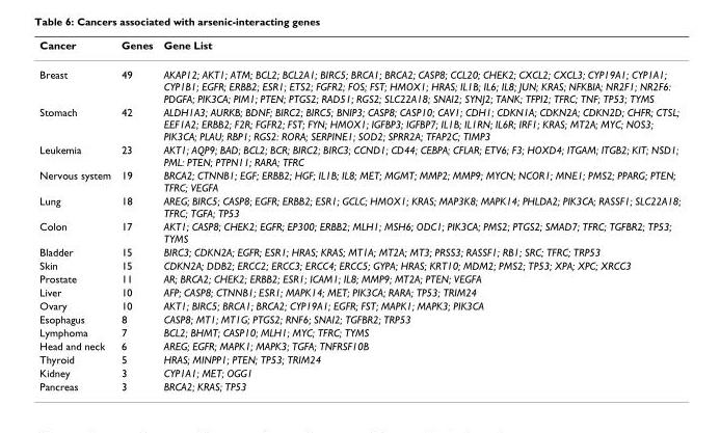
<table><thead><tr><td>Cancer</td><td>Genes</td><td>Gene List</td></tr></thead><tbody><tr><td>Breast</td><td>49</td><td>AKAP12; AKT1; ATM; BCL2; BCL2A1; BIRC5; BRCA1; BRCA2; CASP8; CCL20; CHEK2; CXCL2; CXCL3; CYP19A1; CYP1A1; CYP1B1; EGFR; ERBB2; ESR1; ETS2; FGFR2; FOS; FST; HMOX1; HRAS; IL1B; IL6; IL8; JUN; KRAS; NFKBIA; NR2F1; NR2F6: PDGFA; PIK3CA; PIM1; PTEN; PTGS2; RAD51; RGS2; SLC22A18; SNAI2; SYNJ2; TANK; TFPI2; TFRC; TNF; TP53; TYMS</td></tr><tr><td>Stomach</td><td>42</td><td>ALDH1A3; AURKB; BDNF; BIRC2; BIRC5; BNIP3; CASP8; CASP10; CAV1; CDH1; CDKN1A; CDKN2A; CDKN2D; CHFR; CTSL; EEF1A2; ERBB2; F2R; FGFR2; FST; FYN; HMOX1; IGFBP3; IGFBP7; IL1B; IL1RN; IL6R; IRF1; KRAS; MT2A; MYC; NOS3; PIK3CA; PLAU; RBP1; RGS2: RORA; SERPINE1; SOD2; SPRR2A; TFAP2C; TIMP3</td></tr><tr><td>Leukemia</td><td>23</td><td>AKT1; AQP9; BAD; BCL2; BCR; BIRC2; BIRC3; CCND1; CD44; CEBPA; CFLAR; ETV6; F3; HOXD4; ITGAM; ITGB2; KIT; NSD1; PML: PTEN; PTPN11; RARA; TFRC</td></tr><tr><td>Nervous system</td><td>19</td><td>BRCA2; CTNNB1; EGF; ERBB2; HGF; IL1B; IL8; MET; MGMT; MMP2; MMP9; MYCN; NCOR1; MNE1; PMS2; PPARG; PTEN; TFRC; VEGFA</td></tr><tr><td>Lung</td><td>18</td><td>AREG; BIRC5; CASP8; EGFR; ERBB2; ESR1; GCLC; HMOX1; KRAS; MAP3K8; MAPK14; PHLDA2; PIK3CA; RASSF1; SLC22A18; TFRC; TGFA; TP53</td></tr><tr><td>Colon</td><td>17</td><td>AKT1; CASP8; CHEK2; EGFR; EP300; ERBB2; MLH1; MSH6; ODC1; PIK3CA; PMS2; PTGS2; SMAD7; TFRC; TGFBR2; TP53; TYMS</td></tr><tr><td>Bladder</td><td>15</td><td>BIRC3; CDKN2A; EGFR; ESR1; HRAS; KRAS; MT1A; MT2A; MT3; PRSS3; RASSF1; RB1; SRC; TFRC; TRP53</td></tr><tr><td>Skin</td><td>15</td><td>CDKN2A; DDB2; ERCC2; ERCC3; ERCC4; ERCC5; GYPA; HRAS; KRT10; MDM2; PMS2; TP53; XPA; XPC; XRCC3</td></tr><tr><td>Prostate</td><td>11</td><td>AR; BRCA2; CHEK2; ERBB2; ESR1; ICAM1; IL8; MMP9; MT2A; PTEN; VEGFA</td></tr><tr><td>Liver</td><td>10</td><td>AFP; CASP8; CTNNB1; ESR1; MAPK14; MET; PIK3CA; RARA; TP53; TRIM24</td></tr><tr><td>Ovary</td><td>10</td><td>AKT1; BIRC5; BRCA1; BRCA2; CYP19A1; EGFR; FST; MAPK1; MAPK3; PIK3CA</td></tr><tr><td>Esophagus</td><td>8</td><td>CASP8; MT1; MT1G; PTGS2; RNF6; SNAI2; TGFBR2; TRP53</td></tr><tr><td>Lymphoma</td><td>7</td><td>BCL2; BHMT; CASP10; MLH1; MYC; TFRC; TYMS</td></tr><tr><td>Head and neck</td><td>6</td><td>AREG; EGFR; MAPK1; MAPK3; TGFA; TNFRSF10B</td></tr><tr><td>Thyroid</td><td>5</td><td>HRAS; MINPP1; PTEN; TP53; TRIM24</td></tr><tr><td>Kidney</td><td>3</td><td>CYP1A1; MET; OGG1</td></tr><tr><td>Pancreas</td><td>3</td><td>BRCA2; KRAS; TP53</td></tr></tbody></table>